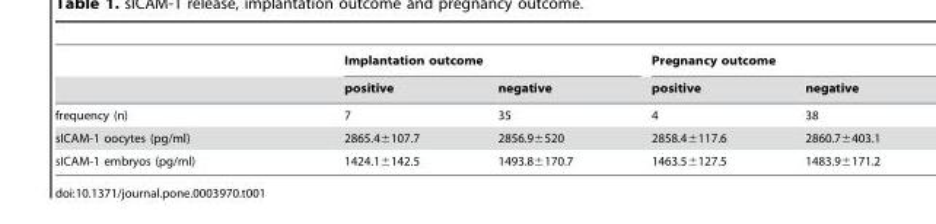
<table><thead><tr><td rowspan="2"></td><td colspan="2">Implantation outcome</td><td colspan="2">Pregnancy outcome</td></tr><tr><td>positive</td><td>negative</td><td>positive</td><td>negative</td></tr></thead><tbody><tr><td>frequency (n)</td><td>7</td><td>35</td><td>4</td><td>38</td></tr><tr><td>sICAM-1 oocytes (pg/ml)</td><td>2865.4±107.7</td><td>2856.9±520</td><td>2858.4±117.6</td><td>2860.7±403.1</td></tr><tr><td>sICAM-1 embryos (pg/ml)</td><td>1424.1±142.5</td><td>1493.8±170.7</td><td>1463.5±127.5</td><td>1483.9±171.2</td></tr></tbody></table>